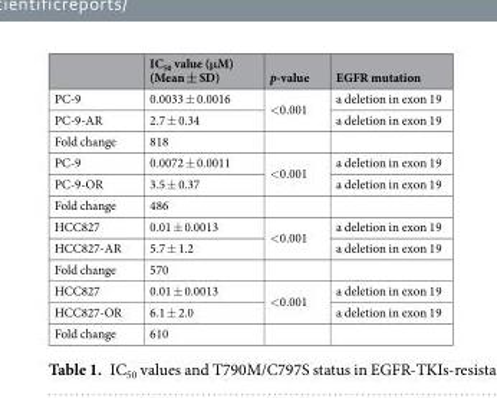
<table><thead><tr><td></td><td>IC<sub>50</sub> value (μM) (Mean ± SD)</td><td>p-value</td><td>EGFR mutation</td></tr></thead><tbody><tr><td>PC-9</td><td>0.0033 ± 0.0016</td><td rowspan="2">&lt;0.001</td><td>a deletion in exon 19</td></tr><tr><td>PC-9-AR</td><td>2.7 ± 0.34</td><td>a deletion in exon 19</td></tr><tr><td>Fold change</td><td>818</td><td></td><td></td></tr><tr><td>PC-9</td><td>0.0072 ± 0.0011</td><td rowspan="2">&lt;0.001</td><td>a deletion in exon 19</td></tr><tr><td>PC-9-OR</td><td>3.5 ± 0.37</td><td>a deletion in exon 19</td></tr><tr><td>Fold change</td><td>486</td><td></td><td></td></tr><tr><td>HCC827</td><td>0.01 ± 0.0013</td><td rowspan="2">&lt;0.001</td><td>a deletion in exon 19</td></tr><tr><td>HCC827-AR</td><td>5.7 ± 1.2</td><td>a deletion in exon 19</td></tr><tr><td>Fold change</td><td>570</td><td></td><td></td></tr><tr><td>HCC827</td><td>0.01 ± 0.0013</td><td rowspan="2">&lt;0.001</td><td>a deletion in exon 19</td></tr><tr><td>HCC827-OR</td><td>6.1 ± 2.0</td><td>a deletion in exon 19</td></tr><tr><td>Fold change</td><td>610</td><td></td><td></td></tr></tbody></table>